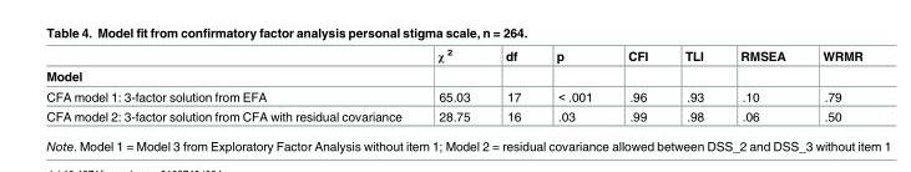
<table><thead><tr><td rowspan="2">Model</td><td rowspan="2">χ <sup>2</sup></td><td rowspan="2">df</td><td rowspan="2">p</td><td rowspan="2">CFI</td><td rowspan="2">TLI</td><td rowspan="2">RMSEA</td><td rowspan="2">WRMR</td></tr><tr></tr></thead><tbody><tr><td>CFA model 1: 3-factor solution from EFA</td><td>65.03</td><td>17</td><td>&lt; .001</td><td>.96</td><td>.93</td><td>.10</td><td>.79</td></tr><tr><td>CFA model 2: 3-factor solution from CFA with residual covariance</td><td>28.75</td><td>16</td><td>.03</td><td>.99</td><td>.98</td><td>.06</td><td>.50</td></tr></tbody></table>